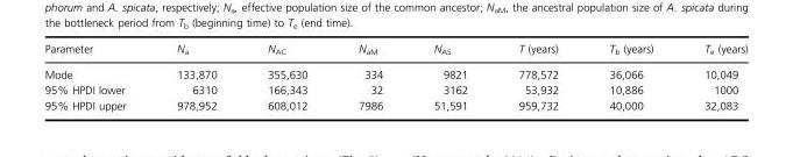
<table><thead><tr><td>Parameter</td><td>N<sub>a</sub></td><td>N<sub>AC</sub></td><td>N<sub>aM</sub></td><td>N<sub>AS</sub></td><td>T (years)</td><td>T<sub>b</sub> (years)</td><td>T<sub>e</sub> (years)</td></tr></thead><tbody><tr><td>Mode</td><td>133,870</td><td>355,630</td><td>334</td><td>9821</td><td>778,572</td><td>36,066</td><td>10,049</td></tr><tr><td>95% HPDI lower</td><td>6310</td><td>166,343</td><td>32</td><td>3162</td><td>53,932</td><td>10,886</td><td>1000</td></tr><tr><td>95% HPDI upper</td><td>978,952</td><td>608,012</td><td>7986</td><td>51,591</td><td>959,732</td><td>40,000</td><td>32,083</td></tr></tbody></table>